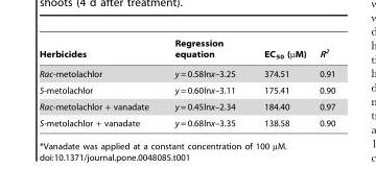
<table><thead><tr><td>Herbicides</td><td>Regression equation</td><td>EC<sub>50</sub> (µM)</td><td>R<sup>2</sup></td></tr></thead><tbody><tr><td>Rac-metolachlor</td><td>y = 0.58lnx–3.25</td><td>374.51</td><td>0.91</td></tr><tr><td>S-metolachlor</td><td>y = 0.60lnx–3.11</td><td>175.41</td><td>0.90</td></tr><tr><td>Rac-metolachlor + vanadate</td><td>y = 0.45lnx–2.34</td><td>184.40</td><td>0.97</td></tr><tr><td>S-metolachlor + vanadate</td><td>y = 0.68lnx–3.35</td><td>138.58</td><td>0.90</td></tr></tbody></table>